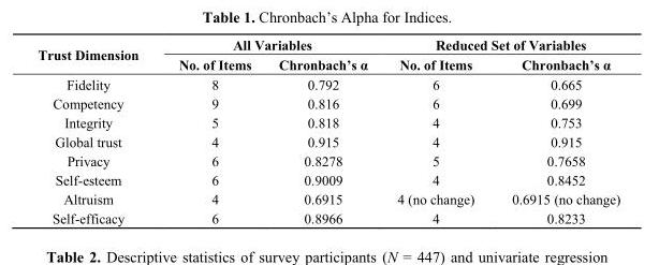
<table><thead><tr><td rowspan="2">Trust Dimension</td><td colspan="2">All Variables</td><td colspan="2">Reduced Set of Variables</td></tr><tr><td>No. of Items</td><td>Chronbach’s α</td><td>No. of Items</td><td>Chronbach’s α</td></tr></thead><tbody><tr><td>Fidelity</td><td>8</td><td>0.792</td><td>6</td><td>0.665</td></tr><tr><td>Competency</td><td>9</td><td>0.816</td><td>6</td><td>0.699</td></tr><tr><td>Integrity</td><td>5</td><td>0.818</td><td>4</td><td>0.753</td></tr><tr><td>Global trust</td><td>4</td><td>0.915</td><td>4</td><td>0.915</td></tr><tr><td>Privacy</td><td>6</td><td>0.8278</td><td>5</td><td>0.7658</td></tr><tr><td>Self-esteem</td><td>6</td><td>0.9009</td><td>4</td><td>0.8452</td></tr><tr><td>Altruism</td><td>4</td><td>0.6915</td><td>4 (no change)</td><td>0.6915 (no change)</td></tr><tr><td>Self-efficacy</td><td>6</td><td>0.8966</td><td>4</td><td>0.8233</td></tr></tbody></table>